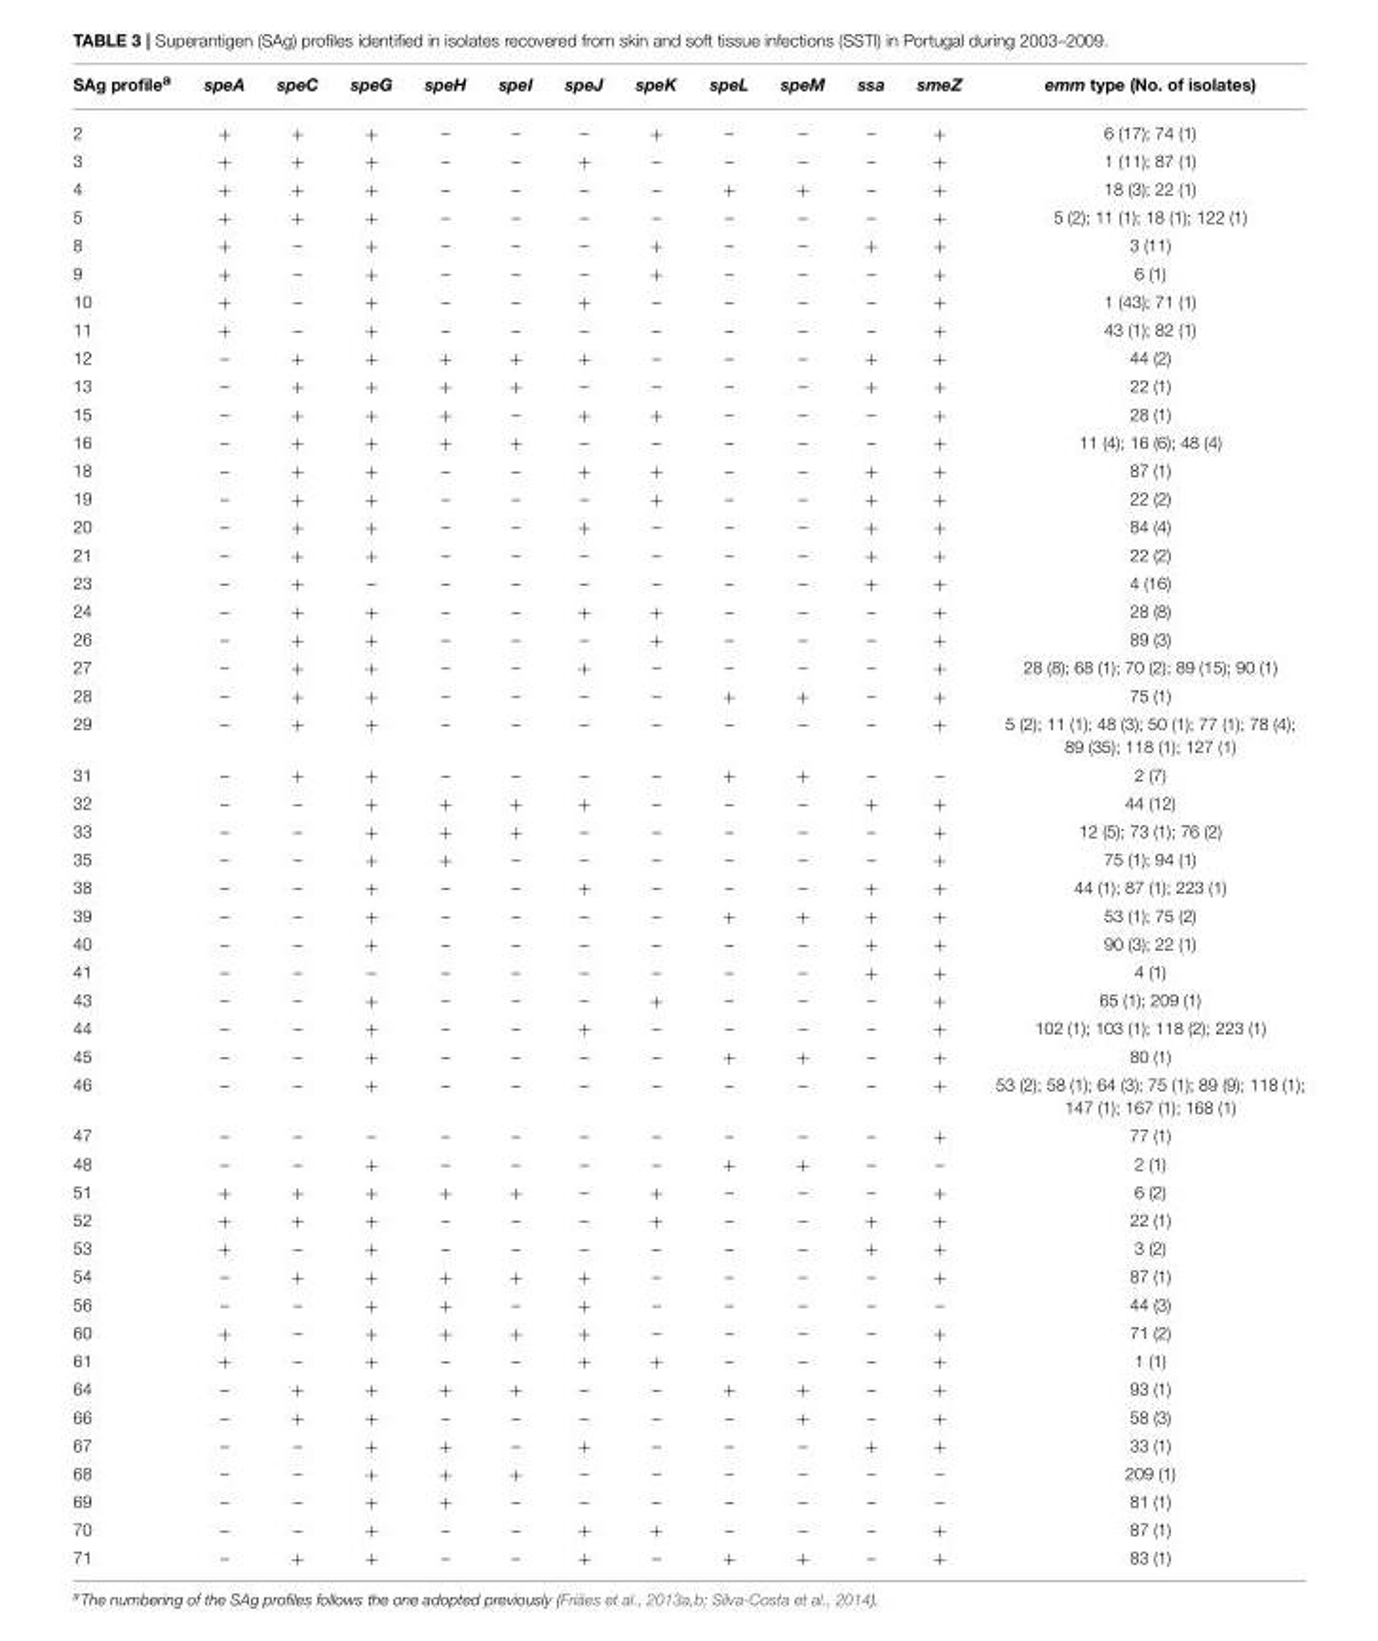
<table><thead><tr><td>SAg profile<sup>a</sup></td><td>speA</td><td>speC</td><td>speG</td><td>speH</td><td>speI</td><td>speJ</td><td>speK</td><td>speL</td><td>speM</td><td>ssa</td><td>smeZ</td><td>emm type (No. of isolates)</td></tr></thead><tbody><tr><td>2</td><td>+</td><td>+</td><td>+</td><td>–</td><td>–</td><td>–</td><td>+</td><td>–</td><td>–</td><td>–</td><td>+</td><td>6 (17); 74 (1)</td></tr><tr><td>3</td><td>+</td><td>+</td><td>+</td><td>–</td><td>–</td><td>+</td><td>–</td><td>–</td><td>–</td><td>–</td><td>+</td><td>1 (11); 87 (1)</td></tr><tr><td>4</td><td>+</td><td>+</td><td>+</td><td>–</td><td>–</td><td>–</td><td>–</td><td>+</td><td>+</td><td>–</td><td>+</td><td>18 (3); 22 (1)</td></tr><tr><td>5</td><td>+</td><td>+</td><td>+</td><td>–</td><td>–</td><td>–</td><td>–</td><td>–</td><td>–</td><td>–</td><td>+</td><td>5 (2); 11 (1); 18 (1); 122 (1)</td></tr><tr><td>8</td><td>+</td><td>–</td><td>+</td><td>–</td><td>–</td><td>–</td><td>+</td><td>–</td><td>–</td><td>+</td><td>+</td><td>3 (11)</td></tr><tr><td>9</td><td>+</td><td>–</td><td>+</td><td>–</td><td>–</td><td>–</td><td>+</td><td>–</td><td>–</td><td>–</td><td>+</td><td>6 (1)</td></tr><tr><td>10</td><td>+</td><td>–</td><td>+</td><td>–</td><td>–</td><td>+</td><td>–</td><td>–</td><td>–</td><td>–</td><td>+</td><td>1 (43); 71 (1)</td></tr><tr><td>11</td><td>+</td><td>–</td><td>+</td><td>–</td><td>–</td><td>–</td><td>–</td><td>–</td><td>–</td><td>–</td><td>+</td><td>43 (1); 82 (1)</td></tr><tr><td>12</td><td>–</td><td>+</td><td>+</td><td>+</td><td>+</td><td>+</td><td>–</td><td>–</td><td>–</td><td>+</td><td>+</td><td>44 (2)</td></tr><tr><td>13</td><td>–</td><td>+</td><td>+</td><td>+</td><td>+</td><td>–</td><td>–</td><td>–</td><td>–</td><td>+</td><td>+</td><td>22 (1)</td></tr><tr><td>15</td><td>–</td><td>+</td><td>+</td><td>+</td><td>–</td><td>+</td><td>+</td><td>–</td><td>–</td><td>–</td><td>+</td><td>28 (1)</td></tr><tr><td>16</td><td>–</td><td>+</td><td>+</td><td>+</td><td>+</td><td>–</td><td>–</td><td>–</td><td>–</td><td>–</td><td>+</td><td>11 (4); 16 (6); 48 (4)</td></tr><tr><td>18</td><td>–</td><td>+</td><td>+</td><td>–</td><td>–</td><td>+</td><td>+</td><td>–</td><td>–</td><td>+</td><td>+</td><td>87 (1)</td></tr><tr><td>19</td><td>–</td><td>+</td><td>+</td><td>–</td><td>–</td><td>–</td><td>+</td><td>–</td><td>–</td><td>+</td><td>+</td><td>22 (2)</td></tr><tr><td>20</td><td>–</td><td>+</td><td>+</td><td>–</td><td>–</td><td>+</td><td>–</td><td>–</td><td>–</td><td>+</td><td>+</td><td>84 (4)</td></tr><tr><td>21</td><td>–</td><td>+</td><td>+</td><td>–</td><td>–</td><td>–</td><td>–</td><td>–</td><td>–</td><td>+</td><td>+</td><td>22 (2)</td></tr><tr><td>23</td><td>–</td><td>+</td><td>–</td><td>–</td><td>–</td><td>–</td><td>–</td><td>–</td><td>–</td><td>+</td><td>+</td><td>4 (16)</td></tr><tr><td>24</td><td>–</td><td>+</td><td>+</td><td>–</td><td>–</td><td>+</td><td>+</td><td>–</td><td>–</td><td>–</td><td>+</td><td>28 (8)</td></tr><tr><td>26</td><td>–</td><td>+</td><td>+</td><td>–</td><td>–</td><td>–</td><td>+</td><td>–</td><td>–</td><td>–</td><td>+</td><td>89 (3)</td></tr><tr><td>27</td><td>–</td><td>+</td><td>+</td><td>–</td><td>–</td><td>+</td><td>–</td><td>–</td><td>–</td><td>–</td><td>+</td><td>28 (8); 68 (1); 70 (2); 89 (15); 90 (1)</td></tr><tr><td>28</td><td>–</td><td>+</td><td>+</td><td>–</td><td>–</td><td>–</td><td>–</td><td>+</td><td>+</td><td>–</td><td>+</td><td>75 (1)</td></tr><tr><td>29</td><td>–</td><td>+</td><td>+</td><td>–</td><td>–</td><td>–</td><td>–</td><td>–</td><td>–</td><td>–</td><td>+</td><td>5 (2); 11 (1); 48 (3); 50 (1); 77 (1); 78 (4); 89 (35); 118 (1); 127 (1)</td></tr><tr><td>31</td><td>–</td><td>+</td><td>+</td><td>–</td><td>–</td><td>–</td><td>–</td><td>+</td><td>+</td><td>–</td><td>–</td><td>2 (7)</td></tr><tr><td>32</td><td>–</td><td>–</td><td>+</td><td>+</td><td>+</td><td>+</td><td>–</td><td>–</td><td>–</td><td>+</td><td>+</td><td>44 (12)</td></tr><tr><td>33</td><td>–</td><td>–</td><td>+</td><td>+</td><td>+</td><td>–</td><td>–</td><td>–</td><td>–</td><td>–</td><td>+</td><td>12 (5); 73 (1); 76 (2)</td></tr><tr><td>35</td><td>–</td><td>–</td><td>+</td><td>+</td><td>–</td><td>–</td><td>–</td><td>–</td><td>–</td><td>–</td><td>+</td><td>75 (1); 94 (1)</td></tr><tr><td>38</td><td>–</td><td>–</td><td>+</td><td>–</td><td>–</td><td>+</td><td>–</td><td>–</td><td>–</td><td>+</td><td>+</td><td>44 (1); 87 (1); 223 (1)</td></tr><tr><td>39</td><td>–</td><td>–</td><td>+</td><td>–</td><td>–</td><td>–</td><td>–</td><td>+</td><td>+</td><td>+</td><td>+</td><td>53 (1); 75 (2)</td></tr><tr><td>40</td><td>–</td><td>–</td><td>+</td><td>–</td><td>–</td><td>–</td><td>–</td><td>–</td><td>–</td><td>+</td><td>+</td><td>90 (3); 22 (1)</td></tr><tr><td>41</td><td>–</td><td>–</td><td>–</td><td>–</td><td>–</td><td>–</td><td>–</td><td>–</td><td>–</td><td>+</td><td>+</td><td>4 (1)</td></tr><tr><td>43</td><td>–</td><td>–</td><td>+</td><td>–</td><td>–</td><td>–</td><td>+</td><td>–</td><td>–</td><td>–</td><td>+</td><td>65 (1); 209 (1)</td></tr><tr><td>44</td><td>–</td><td>–</td><td>+</td><td>–</td><td>–</td><td>+</td><td>–</td><td>–</td><td>–</td><td>–</td><td>+</td><td>102 (1); 103 (1); 118 (2); 223 (1)</td></tr><tr><td>45</td><td>–</td><td>–</td><td>+</td><td>–</td><td>–</td><td>–</td><td>–</td><td>+</td><td>+</td><td>–</td><td>+</td><td>80 (1)</td></tr><tr><td>46</td><td>–</td><td>–</td><td>+</td><td>–</td><td>–</td><td>–</td><td>–</td><td>–</td><td>–</td><td>–</td><td>+</td><td>53 (2); 58 (1); 64 (3); 75 (1); 89 (9); 118 (1); 147 (1); 167 (1); 168 (1)</td></tr><tr><td>47</td><td>–</td><td>–</td><td>–</td><td>–</td><td>–</td><td>–</td><td>–</td><td>–</td><td>–</td><td>–</td><td>+</td><td>77 (1)</td></tr><tr><td>48</td><td>–</td><td>–</td><td>+</td><td>–</td><td>–</td><td>–</td><td>–</td><td>+</td><td>+</td><td>–</td><td>–</td><td>2 (1)</td></tr><tr><td>51</td><td>+</td><td>+</td><td>+</td><td>+</td><td>+</td><td>–</td><td>+</td><td>–</td><td>–</td><td>–</td><td>+</td><td>6 (2)</td></tr><tr><td>52</td><td>+</td><td>+</td><td>+</td><td>–</td><td>–</td><td>–</td><td>+</td><td>–</td><td>–</td><td>+</td><td>+</td><td>22 (1)</td></tr><tr><td>53</td><td>+</td><td>–</td><td>+</td><td>–</td><td>–</td><td>–</td><td>–</td><td>–</td><td>–</td><td>+</td><td>+</td><td>3 (2)</td></tr><tr><td>54</td><td>–</td><td>+</td><td>+</td><td>+</td><td>+</td><td>+</td><td>–</td><td>–</td><td>–</td><td>–</td><td>+</td><td>87 (1)</td></tr><tr><td>56</td><td>–</td><td>–</td><td>+</td><td>+</td><td>–</td><td>+</td><td>–</td><td>–</td><td>–</td><td>–</td><td>–</td><td>44 (3)</td></tr><tr><td>60</td><td>+</td><td>–</td><td>+</td><td>+</td><td>+</td><td>+</td><td>–</td><td>–</td><td>–</td><td>–</td><td>+</td><td>71 (2)</td></tr><tr><td>61</td><td>+</td><td>–</td><td>+</td><td>–</td><td>–</td><td>+</td><td>+</td><td>–</td><td>–</td><td>–</td><td>+</td><td>1 (1)</td></tr><tr><td>64</td><td>–</td><td>+</td><td>+</td><td>+</td><td>+</td><td>–</td><td>–</td><td>+</td><td>+</td><td>–</td><td>+</td><td>93 (1)</td></tr><tr><td>66</td><td>–</td><td>+</td><td>+</td><td>–</td><td>–</td><td>–</td><td>–</td><td>–</td><td>+</td><td>–</td><td>+</td><td>58 (3)</td></tr><tr><td>67</td><td>–</td><td>–</td><td>+</td><td>+</td><td>–</td><td>+</td><td>–</td><td>–</td><td>–</td><td>+</td><td>+</td><td>33 (1)</td></tr><tr><td>68</td><td>–</td><td>–</td><td>+</td><td>+</td><td>+</td><td>–</td><td>–</td><td>–</td><td>–</td><td>–</td><td>–</td><td>209 (1)</td></tr><tr><td>69</td><td>–</td><td>–</td><td>+</td><td>+</td><td>–</td><td>–</td><td>–</td><td>–</td><td>–</td><td>–</td><td>–</td><td>81 (1)</td></tr><tr><td>70</td><td>–</td><td>–</td><td>+</td><td>–</td><td>–</td><td>+</td><td>+</td><td>–</td><td>–</td><td>–</td><td>+</td><td>87 (1)</td></tr><tr><td>71</td><td>–</td><td>+</td><td>+</td><td>–</td><td>–</td><td>+</td><td>–</td><td>+</td><td>+</td><td>–</td><td>+</td><td>83 (1)</td></tr></tbody></table>